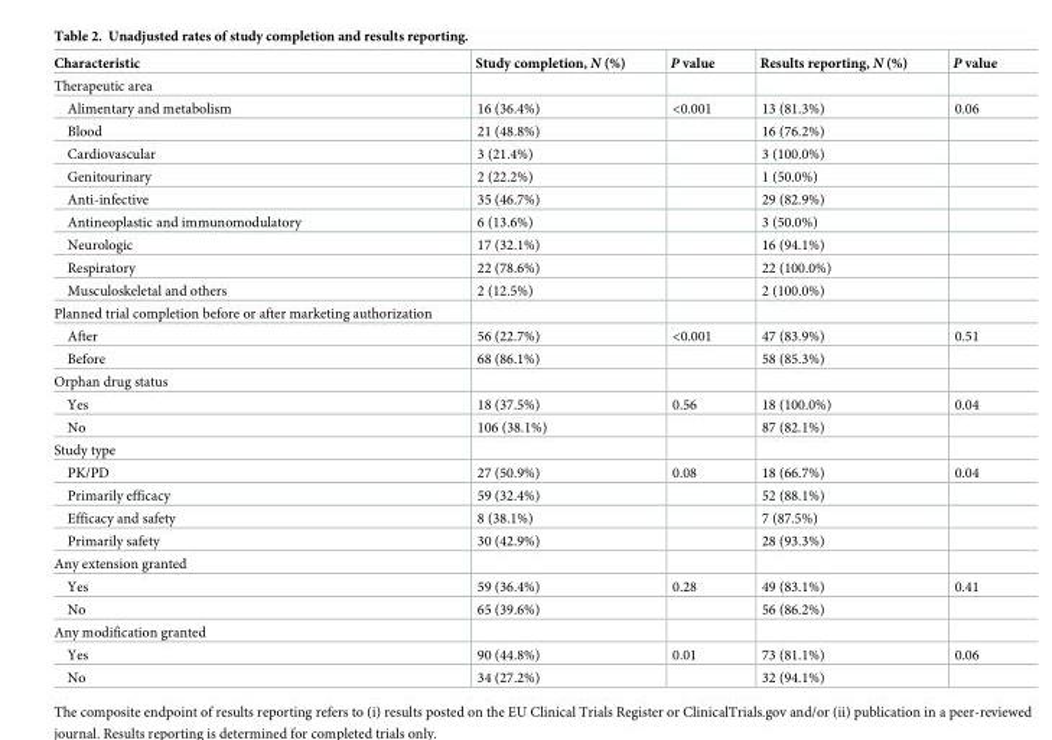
<table><thead><tr><td>Characteristic</td><td>Study completion, N (%)</td><td>P value</td><td>Results reporting, N (%)</td><td>P value</td></tr></thead><tbody><tr><td colspan="5">Therapeutic area</td></tr><tr><td>Alimentary and metabolism</td><td>16 (36.4%)</td><td>&lt;0.001</td><td>13 (81.3%)</td><td>0.06</td></tr><tr><td>Blood</td><td>21 (48.8%)</td><td></td><td>16 (76.2%)</td><td></td></tr><tr><td>Cardiovascular</td><td>3 (21.4%)</td><td></td><td>3 (100.0%)</td><td></td></tr><tr><td>Genitourinary</td><td>2 (22.2%)</td><td></td><td>1 (50.0%)</td><td></td></tr><tr><td>Anti-infective</td><td>35 (46.7%)</td><td></td><td>29 (82.9%)</td><td></td></tr><tr><td>Antineoplastic and immunomodulatory</td><td>6 (13.6%)</td><td></td><td>3 (50.0%)</td><td></td></tr><tr><td>Neurologic</td><td>17 (32.1%)</td><td></td><td>16 (94.1%)</td><td></td></tr><tr><td>Respiratory</td><td>22 (78.6%)</td><td></td><td>22 (100.0%)</td><td></td></tr><tr><td>Musculoskeletal and others</td><td>2 (12.5%)</td><td></td><td>2 (100.0%)</td><td></td></tr><tr><td colspan="5">Planned trial completion before or after marketing authorization</td></tr><tr><td>After</td><td>56 (22.7%)</td><td>&lt;0.001</td><td>47 (83.9%)</td><td>0.51</td></tr><tr><td>Before</td><td>68 (86.1%)</td><td></td><td>58 (85.3%)</td><td></td></tr><tr><td colspan="5">Orphan drug status</td></tr><tr><td>Yes</td><td>18 (37.5%)</td><td>0.56</td><td>18 (100.0%)</td><td>0.04</td></tr><tr><td>No</td><td>106 (38.1%)</td><td></td><td>87 (82.1%)</td><td></td></tr><tr><td colspan="5">Study type</td></tr><tr><td>PK/PD</td><td>27 (50.9%)</td><td>0.08</td><td>18 (66.7%)</td><td>0.04</td></tr><tr><td>Primarily efficacy</td><td>59 (32.4%)</td><td></td><td>52 (88.1%)</td><td></td></tr><tr><td>Efficacy and safety</td><td>8 (38.1%)</td><td></td><td>7 (87.5%)</td><td></td></tr><tr><td>Primarily safety</td><td>30 (42.9%)</td><td></td><td>28 (93.3%)</td><td></td></tr><tr><td colspan="5">Any extension granted</td></tr><tr><td>Yes</td><td>59 (36.4%)</td><td>0.28</td><td>49 (83.1%)</td><td>0.41</td></tr><tr><td>No</td><td>65 (39.6%)</td><td></td><td>56 (86.2%)</td><td></td></tr><tr><td colspan="5">Any modification granted</td></tr><tr><td>Yes</td><td>90 (44.8%)</td><td>0.01</td><td>73 (81.1%)</td><td>0.06</td></tr><tr><td>No</td><td>34 (27.2%)</td><td></td><td>32 (94.1%)</td><td></td></tr></tbody></table>